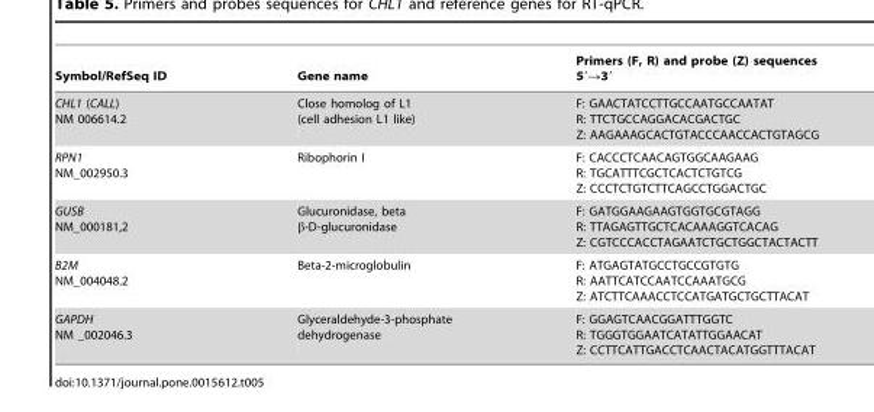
<table><thead><tr><td>Symbol/RefSeq ID</td><td>Gene name</td><td>Primers (F, R) and probe (Z) sequences 5′→3′</td></tr></thead><tbody><tr><td>CHL1 (CALL) NM 006614.2</td><td>Close homolog of L1 (cell adhesion L1 like)</td><td>F: GAACTATCCTTGCCAATGCCAATAT R: TTCTGCCAGGACACGACTGC Z: AAGAAAGCACTGTACCCAACCACTGTAGCG</td></tr><tr><td>RPN1 NM_002950.3</td><td>Ribophorin I</td><td>F: CACCCTCAACAGTGGCAAGAAG R: TGCATTTCGCTCACTCTGTCG Z: CCCTCTGTCTTCAGCCTGGACTGC</td></tr><tr><td>GUSB NM_000181,2</td><td>Glucuronidase, beta β-D-glucuronidase</td><td>F: GATGGAAGAAGTGGTGCGTAGG R: TTAGAGTTGCTCACAAAGGTCACAG Z: CGTCCCACCTAGAATCTGCTGGCTACTACTT</td></tr><tr><td>B2M NM_004048.2</td><td>Beta-2-microglobulin</td><td>F: ATGAGTATGCCTGCCGTGTG R: AATTCATCCAATCCAAATGCG Z: ATCTTCAAACCTCCATGATGCTGCTTACAT</td></tr><tr><td>GAPDH NM _002046.3</td><td>Glyceraldehyde-3-phosphate dehydrogenase</td><td>F: GGAGTCAACGGATTTGGTC R: TGGGTGGAATCATATTGGAACAT Z: CCTTCATTGACCTCAACTACATGGTTTACAT</td></tr></tbody></table>